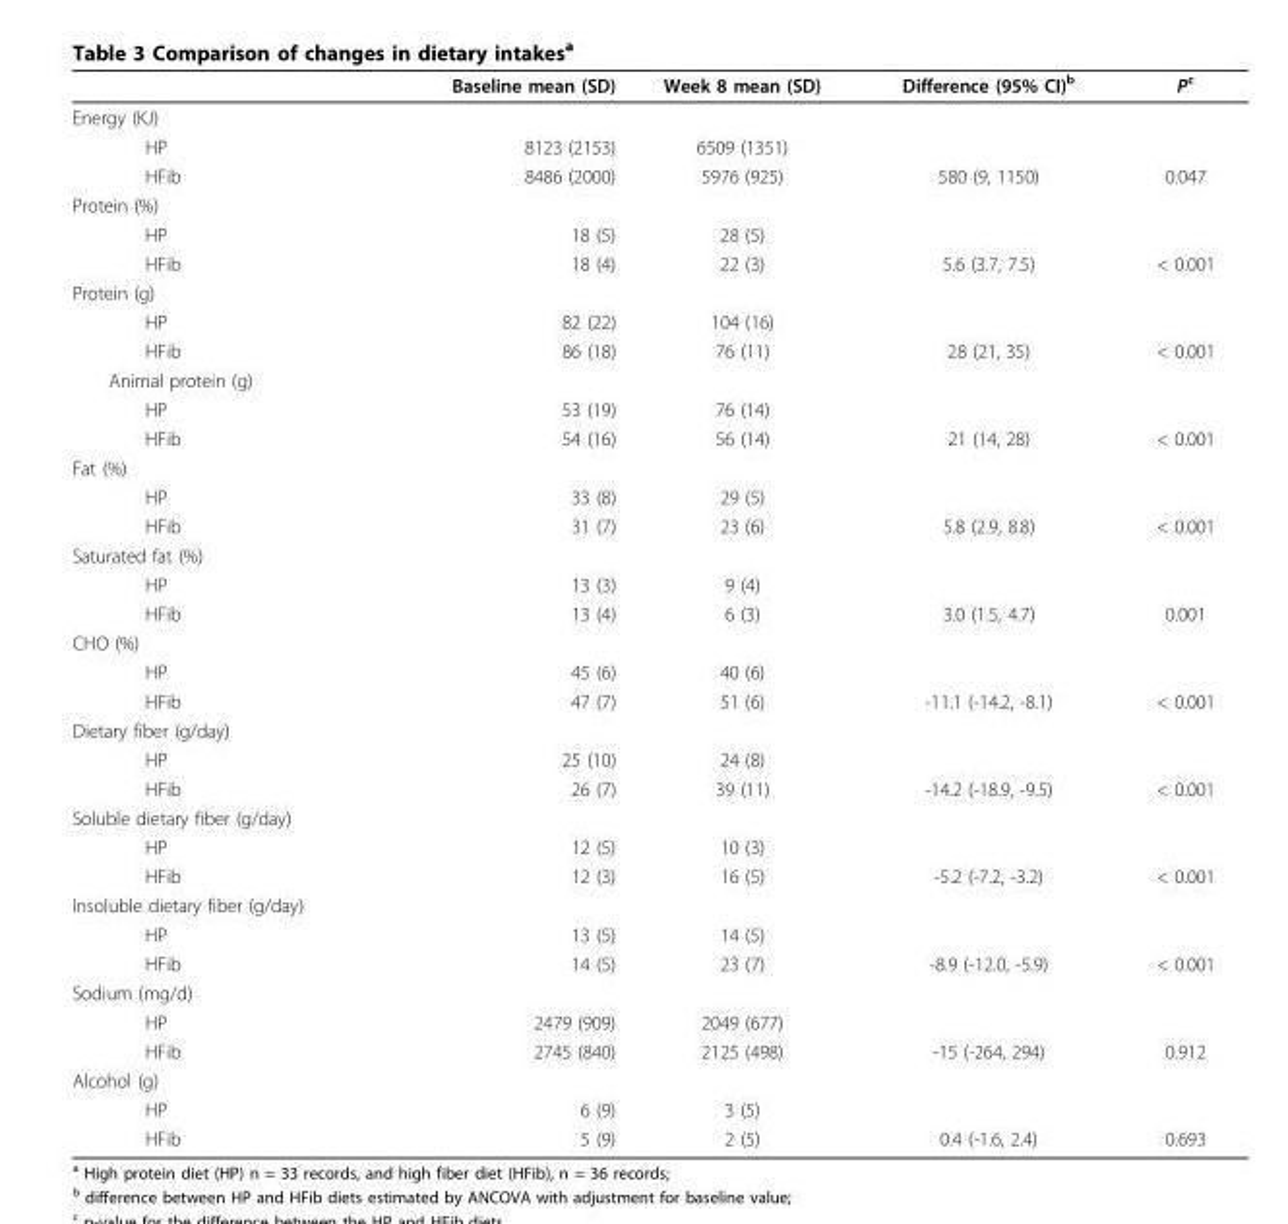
<table><thead><tr><td></td><td>Baseline mean (SD)</td><td>Week 8 mean (SD)</td><td>Difference (95% CI)<sup>b</sup></td><td>P<sup>c</sup></td></tr></thead><tbody><tr><td colspan="5">Energy (KJ)</td></tr><tr><td>HP</td><td>8123 (2153)</td><td>6509 (1351)</td><td></td><td></td></tr><tr><td>HFib</td><td>8486 (2000)</td><td>5976 (925)</td><td>580 (9, 1150)</td><td>0.047</td></tr><tr><td colspan="5">Protein (%)</td></tr><tr><td>HP</td><td>18 (5)</td><td>28 (5)</td><td></td><td></td></tr><tr><td>HFib</td><td>18 (4)</td><td>22 (3)</td><td>5.6 (3.7, 7.5)</td><td>&lt; 0.001</td></tr><tr><td colspan="5">Protein (g)</td></tr><tr><td>HP</td><td>82 (22)</td><td>104 (16)</td><td></td><td></td></tr><tr><td>HFib</td><td>86 (18)</td><td>76 (11)</td><td>28 (21, 35)</td><td>&lt; 0.001</td></tr><tr><td colspan="5">Animal protein (g)</td></tr><tr><td>HP</td><td>53 (19)</td><td>76 (14)</td><td></td><td></td></tr><tr><td>HFib</td><td>54 (16)</td><td>56 (14)</td><td>21 (14, 28)</td><td>&lt; 0.001</td></tr><tr><td colspan="5">Fat (%)</td></tr><tr><td>HP</td><td>33 (8)</td><td>29 (5)</td><td></td><td></td></tr><tr><td>HFib</td><td>31 (7)</td><td>23 (6)</td><td>5.8 (2.9, 8.8)</td><td>&lt; 0.001</td></tr><tr><td colspan="5">Saturated fat (%)</td></tr><tr><td>HP</td><td>13 (3)</td><td>9 (4)</td><td></td><td></td></tr><tr><td>HFib</td><td>13 (4)</td><td>6 (3)</td><td>3.0 (1.5, 4.7)</td><td>0.001</td></tr><tr><td colspan="5">CHO (%)</td></tr><tr><td>HP</td><td>45 (6)</td><td>40 (6)</td><td></td><td></td></tr><tr><td>HFib</td><td>47 (7)</td><td>51 (6)</td><td>-11.1 (-14.2, -8.1)</td><td>&lt; 0.001</td></tr><tr><td colspan="5">Dietary fiber (g/day)</td></tr><tr><td>HP</td><td>25 (10)</td><td>24 (8)</td><td></td><td></td></tr><tr><td>HFib</td><td>26 (7)</td><td>39 (11)</td><td>-14.2 (-18.9, -9.5)</td><td>&lt; 0.001</td></tr><tr><td colspan="5">Soluble dietary fiber (g/day)</td></tr><tr><td>HP</td><td>12 (5)</td><td>10 (3)</td><td></td><td></td></tr><tr><td>HFib</td><td>12 (3)</td><td>16 (5)</td><td>-5.2 (-7.2, -3.2)</td><td>&lt; 0.001</td></tr><tr><td colspan="5">Insoluble dietary fiber (g/day)</td></tr><tr><td>HP</td><td>13 (5)</td><td>14 (5)</td><td></td><td></td></tr><tr><td>HFib</td><td>14 (5)</td><td>23 (7)</td><td>-8.9 (-12.0, -5.9)</td><td>&lt; 0.001</td></tr><tr><td colspan="5">Sodium (mg/d)</td></tr><tr><td>HP</td><td>2479 (909)</td><td>2049 (677)</td><td></td><td></td></tr><tr><td>HFib</td><td>2745 (840)</td><td>2125 (498)</td><td>-15 (-264, 294)</td><td>0.912</td></tr><tr><td colspan="5">Alcohol (g)</td></tr><tr><td>HP</td><td>6 (9)</td><td>3 (5)</td><td></td><td></td></tr><tr><td>HFib</td><td>5 (9)</td><td>2 (5)</td><td>0.4 (-1.6, 2.4)</td><td>0.693</td></tr></tbody></table>